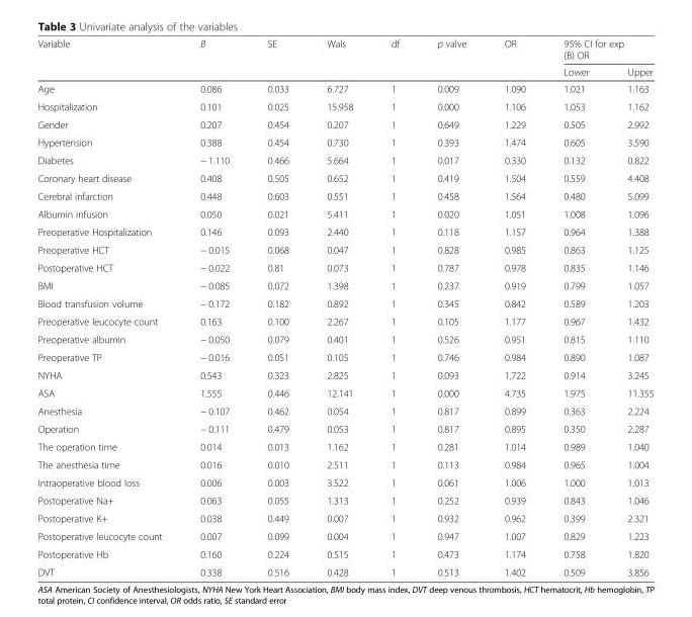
<table><thead><tr><td rowspan="2">Variable</td><td rowspan="2">B</td><td rowspan="2">SE</td><td rowspan="2">Wals</td><td rowspan="2">df</td><td rowspan="2">p valve</td><td rowspan="2">OR</td><td colspan="2">95% CI for exp (B) OR</td></tr><tr><td>Lower</td><td>Upper</td></tr></thead><tbody><tr><td>Age</td><td>0.086</td><td>0.033</td><td>6.727</td><td>1</td><td>0.009</td><td>1.090</td><td>1.021</td><td>1.163</td></tr><tr><td>Hospitalization</td><td>0.101</td><td>0.025</td><td>15.958</td><td>1</td><td>0.000</td><td>1.106</td><td>1.053</td><td>1.162</td></tr><tr><td>Gender</td><td>0.207</td><td>0.454</td><td>0.207</td><td>1</td><td>0.649</td><td>1.229</td><td>0.505</td><td>2.992</td></tr><tr><td>Hypertension</td><td>0.388</td><td>0.454</td><td>0.730</td><td>1</td><td>0.393</td><td>1.474</td><td>0.605</td><td>3.590</td></tr><tr><td>Diabetes</td><td>− 1.110</td><td>0.466</td><td>5.664</td><td>1</td><td>0.017</td><td>0.330</td><td>0.132</td><td>0.822</td></tr><tr><td>Coronary heart disease</td><td>0.408</td><td>0.505</td><td>0.652</td><td>1</td><td>0.419</td><td>1.504</td><td>0.559</td><td>4.408</td></tr><tr><td>Cerebral infarction</td><td>0.448</td><td>0.603</td><td>0.551</td><td>1</td><td>0.458</td><td>1.564</td><td>0.480</td><td>5.099</td></tr><tr><td>Albumin infusion</td><td>0.050</td><td>0.021</td><td>5.411</td><td>1</td><td>0.020</td><td>1.051</td><td>1.008</td><td>1.096</td></tr><tr><td>Preoperative Hospitalization</td><td>0.146</td><td>0.093</td><td>2.440</td><td>1</td><td>0.118</td><td>1.157</td><td>0.964</td><td>1.388</td></tr><tr><td>Preoperative HCT</td><td>− 0.015</td><td>0.068</td><td>0.047</td><td>1</td><td>0.828</td><td>0.985</td><td>0.863</td><td>1.125</td></tr><tr><td>Postoperative HCT</td><td>− 0.022</td><td>0.81</td><td>0.073</td><td>1</td><td>0.787</td><td>0.978</td><td>0.835</td><td>1.146</td></tr><tr><td>BMI</td><td>− 0.085</td><td>0.072</td><td>1.398</td><td>1</td><td>0.237</td><td>0.919</td><td>0.799</td><td>1.057</td></tr><tr><td>Blood transfusion volume</td><td>− 0.172</td><td>0.182</td><td>0.892</td><td>1</td><td>0.345</td><td>0.842</td><td>0.589</td><td>1.203</td></tr><tr><td>Preoperative leucocyte count</td><td>0.163</td><td>0.100</td><td>2.267</td><td>1</td><td>0.105</td><td>1.177</td><td>0.967</td><td>1.432</td></tr><tr><td>Preoperative albumin</td><td>− 0.050</td><td>0.079</td><td>0.401</td><td>1</td><td>0.526</td><td>0.951</td><td>0.815</td><td>1.110</td></tr><tr><td>Preoperative TP</td><td>− 0.016</td><td>0.051</td><td>0.105</td><td>1</td><td>0.746</td><td>0.984</td><td>0.890</td><td>1.087</td></tr><tr><td>NYHA</td><td>0.543</td><td>0.323</td><td>2.825</td><td>1</td><td>0.093</td><td>1.722</td><td>0.914</td><td>3.245</td></tr><tr><td>ASA</td><td>1.555</td><td>0.446</td><td>12.141</td><td>1</td><td>0.000</td><td>4.735</td><td>1.975</td><td>11.355</td></tr><tr><td>Anesthesia</td><td>− 0.107</td><td>0.462</td><td>0.054</td><td>1</td><td>0.817</td><td>0.899</td><td>0.363</td><td>2.224</td></tr><tr><td>Operation</td><td>− 0.111</td><td>0.479</td><td>0.053</td><td>1</td><td>0.817</td><td>0.895</td><td>0.350</td><td>2.287</td></tr><tr><td>The operation time</td><td>0.014</td><td>0.013</td><td>1.162</td><td>1</td><td>0.281</td><td>1.014</td><td>0.989</td><td>1.040</td></tr><tr><td>The anesthesia time</td><td>0.016</td><td>0.010</td><td>2.511</td><td>1</td><td>0.113</td><td>0.984</td><td>0.965</td><td>1.004</td></tr><tr><td>Intraoperative blood loss</td><td>0.006</td><td>0.003</td><td>3.522</td><td>1</td><td>0.061</td><td>1.006</td><td>1.000</td><td>1.013</td></tr><tr><td>Postoperative Na+</td><td>0.063</td><td>0.055</td><td>1.313</td><td>1</td><td>0.252</td><td>0.939</td><td>0.843</td><td>1.046</td></tr><tr><td>Postoperative K+</td><td>0.038</td><td>0.449</td><td>0.007</td><td>1</td><td>0.932</td><td>0.962</td><td>0.399</td><td>2.321</td></tr><tr><td>Postoperative leucocyte count</td><td>0.007</td><td>0.099</td><td>0.004</td><td>1</td><td>0.947</td><td>1.007</td><td>0.829</td><td>1.223</td></tr><tr><td>Postoperative Hb</td><td>0.160</td><td>0.224</td><td>0.515</td><td>1</td><td>0.473</td><td>1.174</td><td>0.758</td><td>1.820</td></tr><tr><td>DVT</td><td>0.338</td><td>0.516</td><td>0.428</td><td>1</td><td>0.513</td><td>1.402</td><td>0.509</td><td>3.856</td></tr></tbody></table>